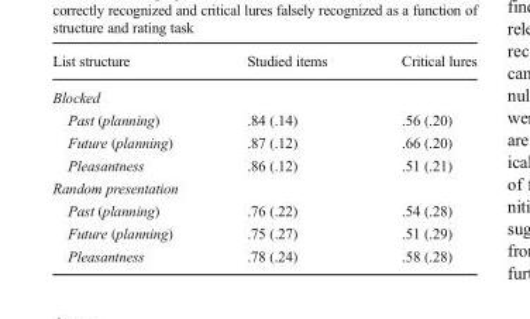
<table><thead><tr><td>List structure</td><td>Studied items</td><td>Critical lures</td></tr></thead><tbody><tr><td colspan="3">Blocked</td></tr><tr><td>Past (planning)</td><td>.84 (.14)</td><td>.56 (.20)</td></tr><tr><td>Future (planning)</td><td>.87 (.12)</td><td>.66 (.20)</td></tr><tr><td>Pleasantness</td><td>.86 (.12)</td><td>.51 (.21)</td></tr><tr><td colspan="3">Random presentation</td></tr><tr><td>Past (planning)</td><td>.76 (.22)</td><td>.54 (.28)</td></tr><tr><td>Future (planning)</td><td>.75 (.27)</td><td>.51 (.29)</td></tr><tr><td>Pleasantness</td><td>.78 (.24)</td><td>.58 (.28)</td></tr></tbody></table>